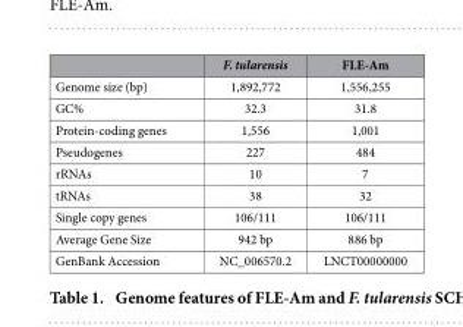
<table><thead><tr><td></td><td>F. tularensis</td><td>FLE-Am</td></tr></thead><tbody><tr><td>Genome size (bp)</td><td>1,892,772</td><td>1,556,255</td></tr><tr><td>GC%</td><td>32.3</td><td>31.8</td></tr><tr><td>Protein-coding genes</td><td>1,556</td><td>1,001</td></tr><tr><td>Pseudogenes</td><td>227</td><td>484</td></tr><tr><td>rRNAs</td><td>10</td><td>7</td></tr><tr><td>tRNAs</td><td>38</td><td>32</td></tr><tr><td>Single copy genes</td><td>106/111</td><td>106/111</td></tr><tr><td>Average Gene Size</td><td>942 bp</td><td>886 bp</td></tr><tr><td>GenBank Accession</td><td>NC_006570.2</td><td>LNCT00000000</td></tr></tbody></table>